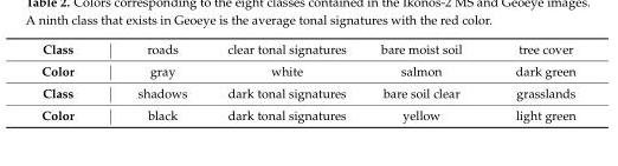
<table><tbody><tr><td>Class</td><td>roads</td><td>clear tonal signatures</td><td>bare moist soil</td><td>tree cover</td></tr><tr><td>Color</td><td>gray</td><td>white</td><td>salmon</td><td>dark green</td></tr><tr><td>Class</td><td>shadows</td><td>dark tonal signatures</td><td>bare soil clear</td><td>grasslands</td></tr><tr><td>Color</td><td>black</td><td>dark tonal signatures</td><td>yellow</td><td>light green</td></tr></tbody></table>